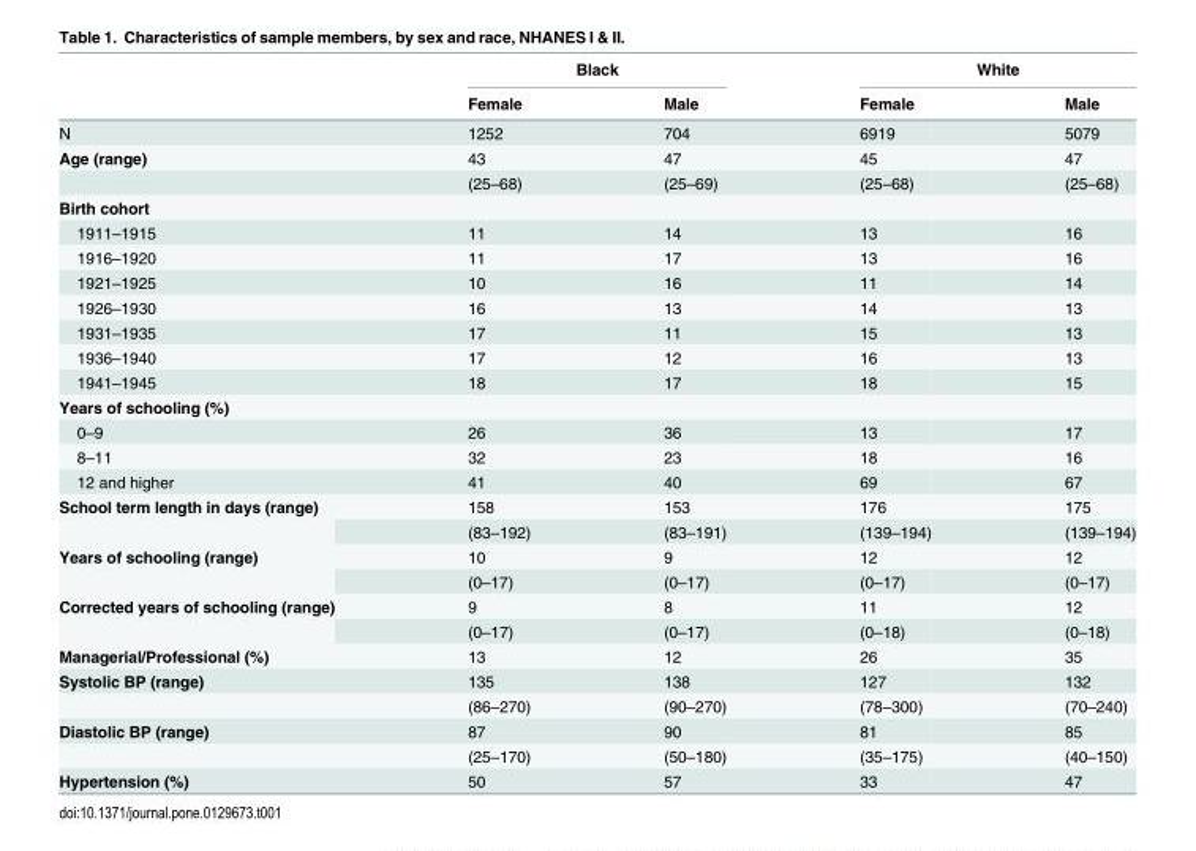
<table><thead><tr><td rowspan="2"></td><td colspan="2">Black</td><td colspan="2">White</td></tr><tr><td>Female</td><td>Male</td><td>Female</td><td>Male</td></tr></thead><tbody><tr><td>N</td><td>1252</td><td>704</td><td>6919</td><td>5079</td></tr><tr><td rowspan="2">Age (range)</td><td>43</td><td>47</td><td>45</td><td>47</td></tr><tr><td>(25–68)</td><td>(25–69)</td><td>(25–68)</td><td>(25–68)</td></tr><tr><td colspan="5">Birth cohort</td></tr><tr><td>1911–1915</td><td>11</td><td>14</td><td>13</td><td>16</td></tr><tr><td>1916–1920</td><td>11</td><td>17</td><td>13</td><td>16</td></tr><tr><td>1921–1925</td><td>10</td><td>16</td><td>11</td><td>14</td></tr><tr><td>1926–1930</td><td>16</td><td>13</td><td>14</td><td>13</td></tr><tr><td>1931–1935</td><td>17</td><td>11</td><td>15</td><td>13</td></tr><tr><td>1936–1940</td><td>17</td><td>12</td><td>16</td><td>13</td></tr><tr><td>1941–1945</td><td>18</td><td>17</td><td>18</td><td>15</td></tr><tr><td colspan="5">Years of schooling (%)</td></tr><tr><td>0–9</td><td>26</td><td>36</td><td>13</td><td>17</td></tr><tr><td>8–11</td><td>32</td><td>23</td><td>18</td><td>16</td></tr><tr><td>12 and higher</td><td>41</td><td>40</td><td>69</td><td>67</td></tr><tr><td rowspan="2">School term length in days (range)</td><td>158</td><td>153</td><td>176</td><td>175</td></tr><tr><td>(83–192)</td><td>(83–191)</td><td>(139–194)</td><td>(139–194)</td></tr><tr><td rowspan="2">Years of schooling (range)</td><td>10</td><td>9</td><td>12</td><td>12</td></tr><tr><td>(0–17)</td><td>(0–17)</td><td>(0–17)</td><td>(0–17)</td></tr><tr><td rowspan="2">Corrected years of schooling (range)</td><td>9</td><td>8</td><td>11</td><td>12</td></tr><tr><td>(0–17)</td><td>(0–17)</td><td>(0–18)</td><td>(0–18)</td></tr><tr><td>Managerial/Professional (%)</td><td>13</td><td>12</td><td>26</td><td>35</td></tr><tr><td rowspan="2">Systolic BP (range)</td><td>135</td><td>138</td><td>127</td><td>132</td></tr><tr><td>(86–270)</td><td>(90–270)</td><td>(78–300)</td><td>(70–240)</td></tr><tr><td rowspan="2">Diastolic BP (range)</td><td>87</td><td>90</td><td>81</td><td>85</td></tr><tr><td>(25–170)</td><td>(50–180)</td><td>(35–175)</td><td>(40–150)</td></tr><tr><td>Hypertension (%)</td><td>50</td><td>57</td><td>33</td><td>47</td></tr></tbody></table>